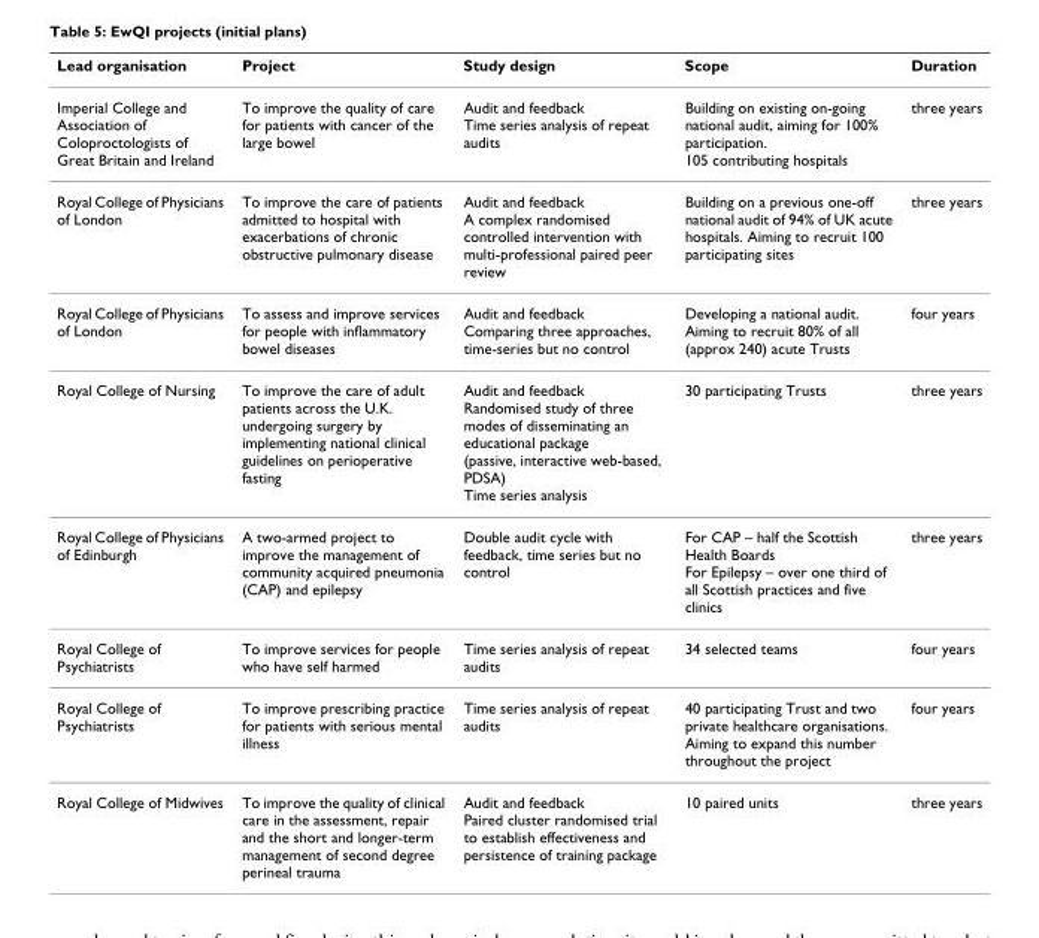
<table><thead><tr><td>Lead organisation</td><td>Project</td><td>Study design</td><td>Scope</td><td>Duration</td></tr></thead><tbody><tr><td>Imperial College and Association of Coloproctologists of Great Britain and Ireland</td><td>To improve the quality of care for patients with cancer of the large bowel</td><td>Audit and feedback Time series analysis of repeat audits</td><td>Building on existing on-going national audit, aiming for 100% participation. 105 contributing hospitals</td><td>three years</td></tr><tr><td>Royal College of Physicians of London</td><td>To improve the care of patients admitted to hospital with exacerbations of chronic obstructive pulmonary disease</td><td>Audit and feedback A complex randomised controlled intervention with multi-professional paired peer review</td><td>Building on a previous one-off national audit of 94% of UK acute hospitals. Aiming to recruit 100 participating sites</td><td>three years</td></tr><tr><td>Royal College of Physicians of London</td><td>To assess and improve services for people with inflammatory bowel diseases</td><td>Audit and feedback Comparing three approaches, time-series but no control</td><td>Developing a national audit. Aiming to recruit 80% of all (approx 240) acute Trusts</td><td>four years</td></tr><tr><td>Royal College of Nursing</td><td>To improve the care of adult patients across the U.K. undergoing surgery by implementing national clinical guidelines on perioperative fasting</td><td>Audit and feedback Randomised study of three modes of disseminating an educational package (passive, interactive web-based, PDSA) Time series analysis</td><td>30 participating Trusts</td><td>three years</td></tr><tr><td>Royal College of Physicians of Edinburgh</td><td>A two-armed project to improve the management of community acquired pneumonia (CAP) and epilepsy</td><td>Double audit cycle with feedback, time series but no control</td><td>For CAP – half the Scottish Health Boards For Epilepsy – over one third of all Scottish practices and five clinics</td><td>three years</td></tr><tr><td>Royal College of Psychiatrists</td><td>To improve services for people who have self harmed</td><td>Time series analysis of repeat audits</td><td>34 selected teams</td><td>four years</td></tr><tr><td>Royal College of Psychiatrists</td><td>To improve prescribing practice for patients with serious mental illness</td><td>Time series analysis of repeat audits</td><td>40 participating Trust and two private healthcare organisations. Aiming to expand this number throughout the project</td><td>four years</td></tr><tr><td>Royal College of Midwives</td><td>To improve the quality of clinical care in the assessment, repair and the short and longer-term management of second degree perineal trauma</td><td>Audit and feedback Paired cluster randomised trial to establish effectiveness and persistence of training package</td><td>10 paired units</td><td>three years</td></tr></tbody></table>